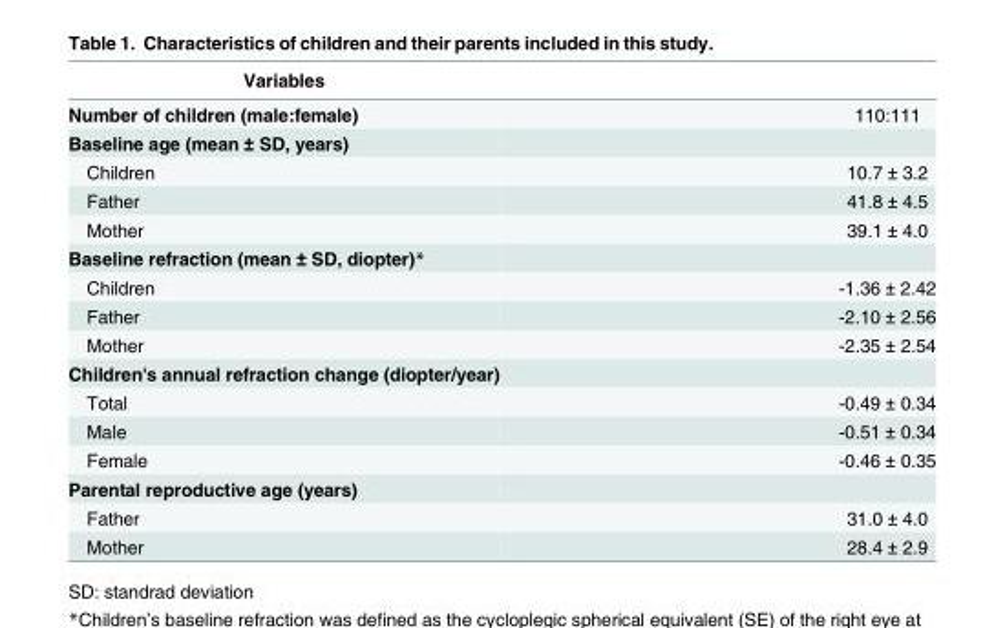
<table><thead><tr><td>Variables</td><td></td></tr></thead><tbody><tr><td>Number of children (male:female)</td><td>110:111</td></tr><tr><td colspan="2">Baseline age (mean ± SD, years)</td></tr><tr><td>Children</td><td>10.7 ± 3.2</td></tr><tr><td>Father</td><td>41.8 ± 4.5</td></tr><tr><td>Mother</td><td>39.1 ± 4.0</td></tr><tr><td colspan="2">Baseline refraction (mean ± SD, diopter)*</td></tr><tr><td>Children</td><td>-1.36 ± 2.42</td></tr><tr><td>Father</td><td>-2.10 ± 2.56</td></tr><tr><td>Mother</td><td>-2.35 ± 2.54</td></tr><tr><td colspan="2">Children&#x27;s annual refraction change (diopter/year)</td></tr><tr><td>Total</td><td>-0.49 ± 0.34</td></tr><tr><td>Male</td><td>-0.51 ± 0.34</td></tr><tr><td>Female</td><td>-0.46 ± 0.35</td></tr><tr><td colspan="2">Parental reproductive age (years)</td></tr><tr><td>Father</td><td>31.0 ± 4.0</td></tr><tr><td>Mother</td><td>28.4 ± 2.9</td></tr></tbody></table>